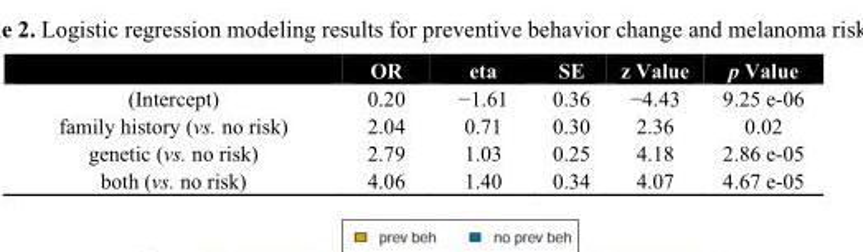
<table><thead><tr><td></td><td>OR</td><td>eta</td><td>SE</td><td>z Value</td><td>p Value</td></tr></thead><tbody><tr><td>(Intercept)</td><td>0.20</td><td>−1.61</td><td>0.36</td><td>−4.43</td><td>9.25 e-06</td></tr><tr><td>family history (vs. no risk)</td><td>2.04</td><td>0.71</td><td>0.30</td><td>2.36</td><td>0.02</td></tr><tr><td>genetic (vs. no risk)</td><td>2.79</td><td>1.03</td><td>0.25</td><td>4.18</td><td>2.86 e-05</td></tr><tr><td>both (vs. no risk)</td><td>4.06</td><td>1.40</td><td>0.34</td><td>4.07</td><td>4.67 e-05</td></tr></tbody></table>